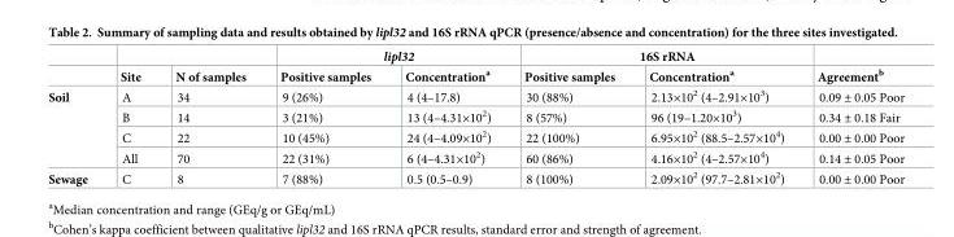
<table><thead><tr><td rowspan="2"></td><td rowspan="2">Site</td><td rowspan="2">N of samples</td><td colspan="2">lipl32</td><td colspan="2">16S rRNA</td><td rowspan="2">Agreement<sup>b</sup></td></tr><tr><td>Positive samples</td><td>Concentration<sup>a</sup></td><td>Positive samples</td><td>Concentration<sup>a</sup></td></tr></thead><tbody><tr><td rowspan="4">Soil</td><td>A</td><td>34</td><td>9 (26%)</td><td>4 (4–17.8)</td><td>30 (88%)</td><td>2.13×10<sup>2</sup> (4–2.91×10<sup>3</sup>)</td><td>0.09 ± 0.05 Poor</td></tr><tr><td>B</td><td>14</td><td>3 (21%)</td><td>13 (4–4.31×10<sup>2</sup>)</td><td>8 (57%)</td><td>96 (19–1.20×10<sup>3</sup>)</td><td>0.34 ± 0.18 Fair</td></tr><tr><td>C</td><td>22</td><td>10 (45%)</td><td>24 (4–4.09×10<sup>2</sup>)</td><td>22 (100%)</td><td>6.95×10<sup>2</sup> (88.5–2.57×10<sup>4</sup>)</td><td>0.00 ± 0.00 Poor</td></tr><tr><td>All</td><td>70</td><td>22 (31%)</td><td>6 (4–4.31×10<sup>2</sup>)</td><td>60 (86%)</td><td>4.16×10<sup>2</sup> (4–2.57×10<sup>4</sup>)</td><td>0.14 ± 0.05 Poor</td></tr><tr><td>Sewage</td><td>C</td><td>8</td><td>7 (88%)</td><td>0.5 (0.5–0.9)</td><td>8 (100%)</td><td>2.09×10<sup>2</sup> (97.7–2.81×10<sup>2</sup>)</td><td>0.00 ± 0.00 Poor</td></tr></tbody></table>